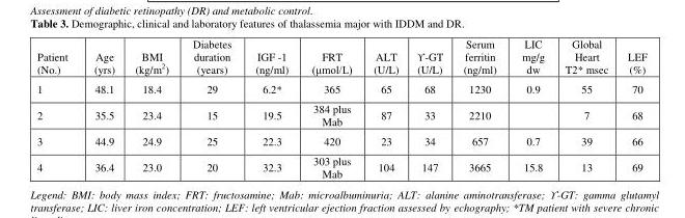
<table><thead><tr><td>Patient (No.)</td><td>Age (yrs)</td><td>BMI (kg/m<sup>2</sup>)</td><td>Diabetes duration (years)</td><td>IGF -1 (ng/ml)</td><td>FRT (μmol/L)</td><td>ALT (U/L)</td><td>ϒ-GT (U/L)</td><td>Serum ferritin (ng/ml)</td><td>LIC mg/g dw</td><td>Global Heart T2* msec</td><td>LEF (%)</td></tr></thead><tbody><tr><td>1</td><td>48.1</td><td>18.4</td><td>29</td><td>6.2*</td><td>365</td><td>65</td><td>68</td><td>1230</td><td>0.9</td><td>55</td><td>70</td></tr><tr><td>2</td><td>35.5</td><td>23.4</td><td>15</td><td>19.5</td><td>384 plus Mab</td><td>87</td><td>33</td><td>2210</td><td></td><td>7</td><td>68</td></tr><tr><td>3</td><td>44.9</td><td>24.9</td><td>25</td><td>22.3</td><td>420</td><td>23</td><td>34</td><td>657</td><td>0.7</td><td>39</td><td>66</td></tr><tr><td>4</td><td>36.4</td><td>23.0</td><td>20</td><td>32.3</td><td>303 plus Mab</td><td>104</td><td>147</td><td>3665</td><td>15.8</td><td>13</td><td>69</td></tr></tbody></table>